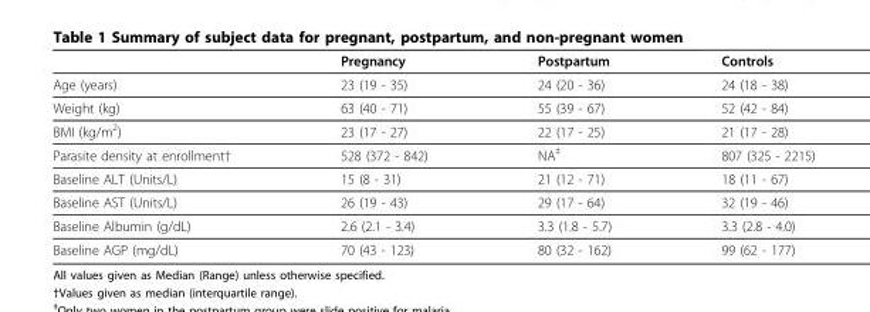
<table><thead><tr><td></td><td>Pregnancy</td><td>Postpartum</td><td>Controls</td></tr></thead><tbody><tr><td>Age (years)</td><td>23 (19 - 35)</td><td>24 (20 - 36)</td><td>24 (18 - 38)</td></tr><tr><td>Weight (kg)</td><td>63 (40 - 71)</td><td>55 (39 - 67)</td><td>52 (42 - 84)</td></tr><tr><td>BMI (kg/m<sup>2</sup>)</td><td>23 (17 - 27)</td><td>22 (17 - 25)</td><td>21 (17 - 28)</td></tr><tr><td>Parasite density at enrollment†</td><td>528 (372 - 842)</td><td>NA<sup>‡</sup></td><td>807 (325 - 2215)</td></tr><tr><td>Baseline ALT (Units/L)</td><td>15 (8 - 31)</td><td>21 (12 - 71)</td><td>18 (11 - 67)</td></tr><tr><td>Baseline AST (Units/L)</td><td>26 (19 - 43)</td><td>29 (17 - 64)</td><td>32 (19 - 46)</td></tr><tr><td>Baseline Albumin (g/dL)</td><td>2.6 (2.1 - 3.4)</td><td>3.3 (1.8 - 5.7)</td><td>3.3 (2.8 - 4.0)</td></tr><tr><td>Baseline AGP (mg/dL)</td><td>70 (43 - 123)</td><td>80 (32 - 162)</td><td>99 (62 - 177)</td></tr></tbody></table>